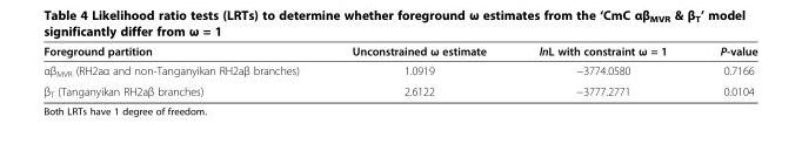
<table><thead><tr><td>Foreground partition</td><td>Unconstrained ω estimate</td><td>lnL with constraint ω = 1</td><td>P-value</td></tr></thead><tbody><tr><td>αβ<sub>MVR</sub> (RH2aα and non-Tanganyikan RH2aβ branches)</td><td>1.0919</td><td>−3774.0580</td><td>0.7166</td></tr><tr><td>β<sub>T</sub> (Tanganyikan RH2aβ branches)</td><td>2.6122</td><td>−3777.2771</td><td>0.0104</td></tr></tbody></table>